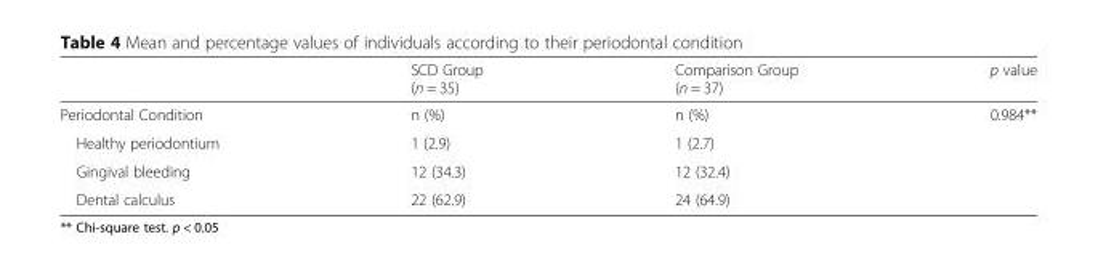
<table><thead><tr><td></td><td>SCD Group (n = 35)</td><td>Comparison Group (n = 37)</td><td>p value</td></tr></thead><tbody><tr><td>Periodontal Condition</td><td>n (%)</td><td>n (%)</td><td>0.984**</td></tr><tr><td>Healthy periodontium</td><td>1 (2.9)</td><td>1 (2.7)</td><td></td></tr><tr><td>Gingival bleeding</td><td>12 (34.3)</td><td>12 (32.4)</td><td></td></tr><tr><td>Dental calculus</td><td>22 (62.9)</td><td>24 (64.9)</td><td></td></tr></tbody></table>